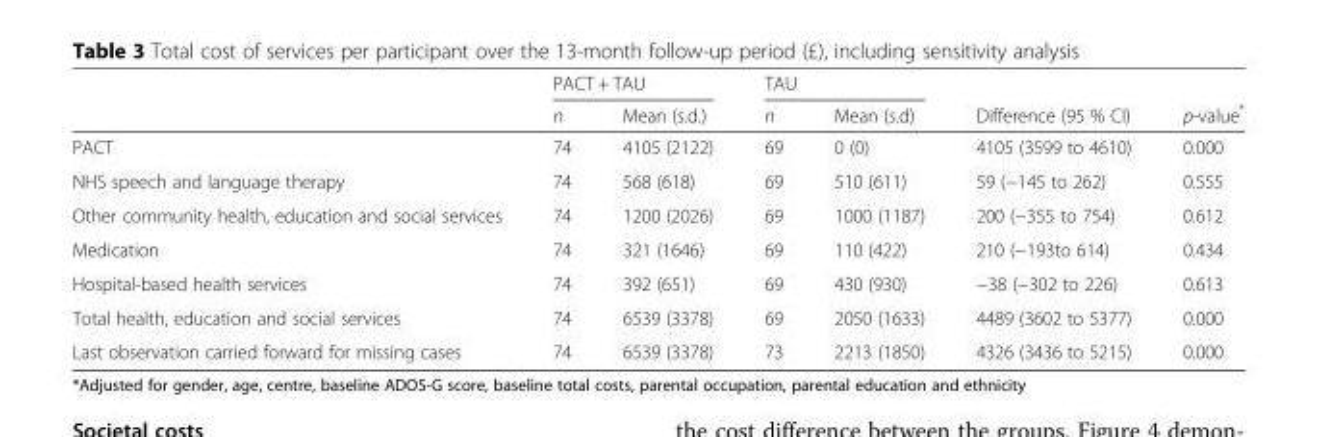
<table><thead><tr><td rowspan="2"></td><td colspan="2">PACT + TAU</td><td colspan="2">TAU</td><td rowspan="2">Difference (95 % CI)</td><td rowspan="2">p-value*</td></tr><tr><td>n</td><td>Mean (s.d.)</td><td>n</td><td>Mean (s.d)</td></tr></thead><tbody><tr><td>PACT</td><td>74</td><td>4105 (2122)</td><td>69</td><td>0 (0)</td><td>4105 (3599 to 4610)</td><td>0.000</td></tr><tr><td>NHS speech and language therapy</td><td>74</td><td>568 (618)</td><td>69</td><td>510 (611)</td><td>59 (−145 to 262)</td><td>0.555</td></tr><tr><td>Other community health, education and social services</td><td>74</td><td>1200 (2026)</td><td>69</td><td>1000 (1187)</td><td>200 (−355 to 754)</td><td>0.612</td></tr><tr><td>Medication</td><td>74</td><td>321 (1646)</td><td>69</td><td>110 (422)</td><td>210 (−193to 614)</td><td>0.434</td></tr><tr><td>Hospital-based health services</td><td>74</td><td>392 (651)</td><td>69</td><td>430 (930)</td><td>−38 (−302 to 226)</td><td>0.613</td></tr><tr><td>Total health, education and social services</td><td>74</td><td>6539 (3378)</td><td>69</td><td>2050 (1633)</td><td>4489 (3602 to 5377)</td><td>0.000</td></tr><tr><td>Last observation carried forward for missing cases</td><td>74</td><td>6539 (3378)</td><td>73</td><td>2213 (1850)</td><td>4326 (3436 to 5215)</td><td>0.000</td></tr></tbody></table>